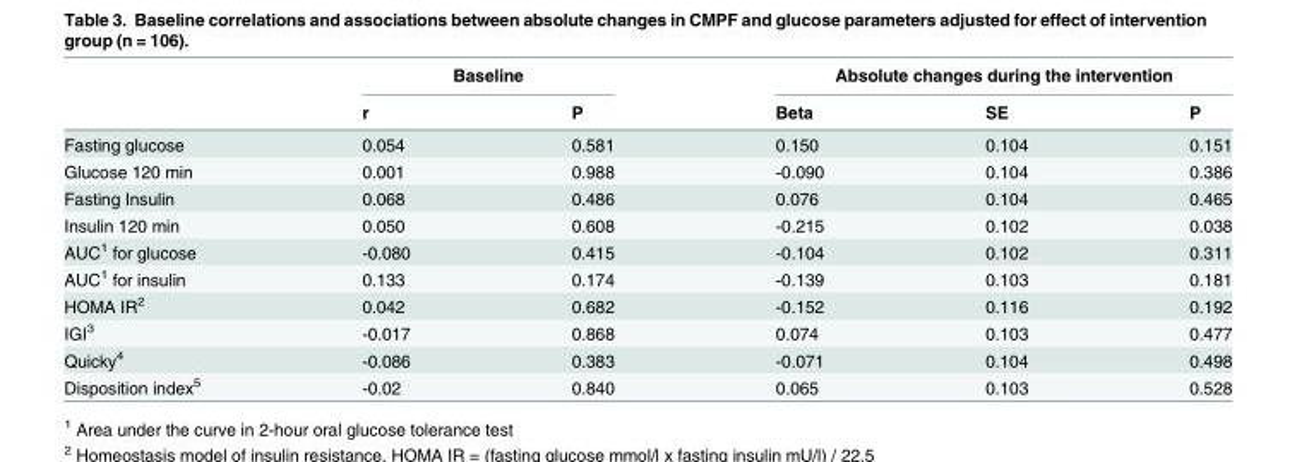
<table><thead><tr><td rowspan="2"></td><td colspan="2">Baseline</td><td colspan="3">Absolute changes during the intervention</td></tr><tr><td>r</td><td>P</td><td>Beta</td><td>SE</td><td>P</td></tr></thead><tbody><tr><td>Fasting glucose</td><td>0.054</td><td>0.581</td><td>0.150</td><td>0.104</td><td>0.151</td></tr><tr><td>Glucose 120 min</td><td>0.001</td><td>0.988</td><td>-0.090</td><td>0.104</td><td>0.386</td></tr><tr><td>Fasting Insulin</td><td>0.068</td><td>0.486</td><td>0.076</td><td>0.104</td><td>0.465</td></tr><tr><td>Insulin 120 min</td><td>0.050</td><td>0.608</td><td>-0.215</td><td>0.102</td><td>0.038</td></tr><tr><td>AUC<sup>1</sup> for glucose</td><td>-0.080</td><td>0.415</td><td>-0.104</td><td>0.102</td><td>0.311</td></tr><tr><td>AUC<sup>1</sup> for insulin</td><td>0.133</td><td>0.174</td><td>-0.139</td><td>0.103</td><td>0.181</td></tr><tr><td>HOMA IR<sup>2</sup></td><td>0.042</td><td>0.682</td><td>-0.152</td><td>0.116</td><td>0.192</td></tr><tr><td>IGI<sup>3</sup></td><td>-0.017</td><td>0.868</td><td>0.074</td><td>0.103</td><td>0.477</td></tr><tr><td>Quicky<sup>4</sup></td><td>-0.086</td><td>0.383</td><td>-0.071</td><td>0.104</td><td>0.498</td></tr><tr><td>Disposition index<sup>5</sup></td><td>-0.02</td><td>0.840</td><td>0.065</td><td>0.103</td><td>0.528</td></tr></tbody></table>